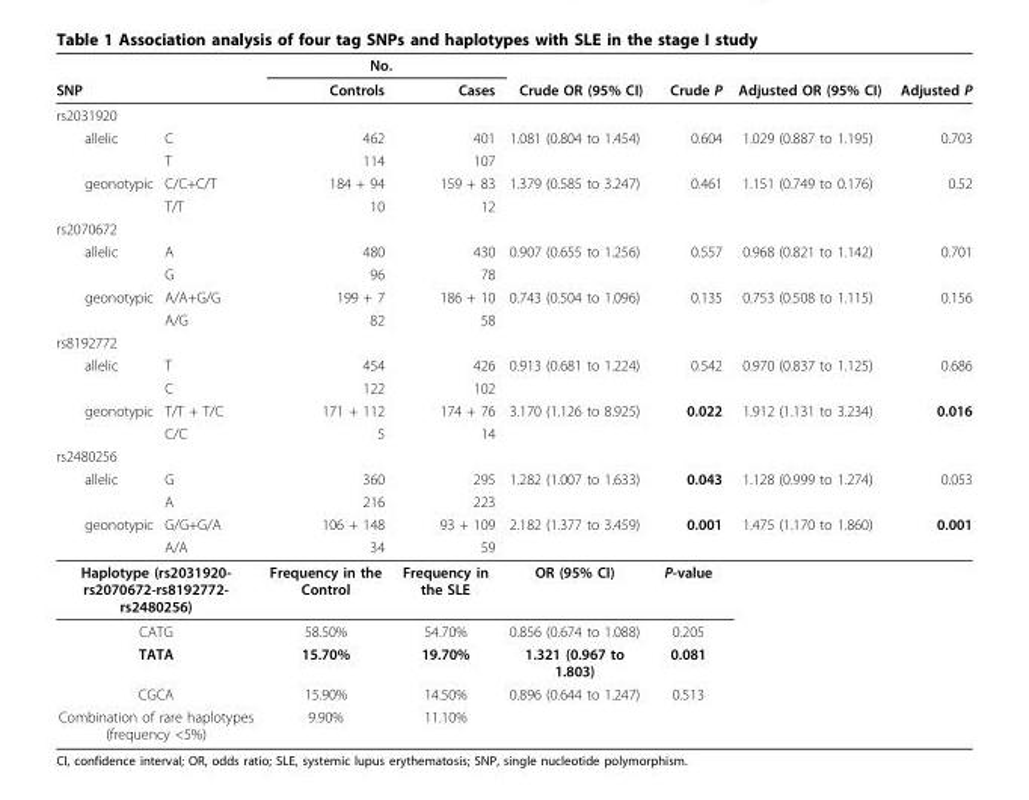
<table><thead><tr><td rowspan="2">SNP</td><td rowspan="2"></td><td colspan="2">No.</td><td rowspan="2">Crude OR (95% CI)</td><td rowspan="2">Crude P</td><td rowspan="2">Adjusted OR (95% CI)</td><td rowspan="2">Adjusted P</td></tr><tr><td>Controls</td><td>Cases</td></tr></thead><tbody><tr><td colspan="8">rs2031920</td></tr><tr><td rowspan="2">allelic</td><td>C</td><td>462</td><td>401</td><td>1.081 (0.804 to 1.454)</td><td>0.604</td><td>1.029 (0.887 to 1.195)</td><td>0.703</td></tr><tr><td>T</td><td>114</td><td>107</td><td></td><td></td><td></td><td></td></tr><tr><td rowspan="2">geonotypic</td><td>C/C+C/T</td><td>184 + 94</td><td>159 + 83</td><td>1.379 (0.585 to 3.247)</td><td>0.461</td><td>1.151 (0.749 to 0.176)</td><td>0.52</td></tr><tr><td>T/T</td><td>10</td><td>12</td><td></td><td></td><td></td><td></td></tr><tr><td colspan="8">rs2070672</td></tr><tr><td rowspan="2">allelic</td><td>A</td><td>480</td><td>430</td><td>0.907 (0.655 to 1.256)</td><td>0.557</td><td>0.968 (0.821 to 1.142)</td><td>0.701</td></tr><tr><td>G</td><td>96</td><td>78</td><td></td><td></td><td></td><td></td></tr><tr><td rowspan="2">geonotypic</td><td>A/A+G/G</td><td>199 + 7</td><td>186 + 10</td><td>0.743 (0.504 to 1.096)</td><td>0.135</td><td>0.753 (0.508 to 1.115)</td><td>0.156</td></tr><tr><td>A/G</td><td>82</td><td>58</td><td></td><td></td><td></td><td></td></tr><tr><td colspan="8">rs8192772</td></tr><tr><td rowspan="2">allelic</td><td>T</td><td>454</td><td>426</td><td>0.913 (0.681 to 1.224)</td><td>0.542</td><td>0.970 (0.837 to 1.125)</td><td>0.686</td></tr><tr><td>C</td><td>122</td><td>102</td><td></td><td></td><td></td><td></td></tr><tr><td rowspan="2">geonotypic</td><td>T/T + T/C</td><td>171 + 112</td><td>174 + 76</td><td>3.170 (1.126 to 8.925)</td><td>0.022</td><td>1.912 (1.131 to 3.234)</td><td>0.016</td></tr><tr><td>C/C</td><td>5</td><td>14</td><td></td><td></td><td></td><td></td></tr><tr><td colspan="8">rs2480256</td></tr><tr><td rowspan="2">allelic</td><td>G</td><td>360</td><td>295</td><td>1.282 (1.007 to 1.633)</td><td>0.043</td><td>1.128 (0.999 to 1.274)</td><td>0.053</td></tr><tr><td>A</td><td>216</td><td>223</td><td></td><td></td><td></td><td></td></tr><tr><td rowspan="2">geonotypic</td><td>G/G+G/A</td><td>106 + 148</td><td>93 + 109</td><td>2.182 (1.377 to 3.459)</td><td>0.001</td><td>1.475 (1.170 to 1.860)</td><td>0.001</td></tr><tr><td>A/A</td><td>34</td><td>59</td><td></td><td></td><td></td><td></td></tr><tr><td colspan="2">Haplotype (rs2031920- rs2070672-rs8192772- rs2480256)</td><td>Frequency in the Control</td><td>Frequency in the SLE</td><td>OR (95% CI)</td><td>P-value</td><td></td><td></td></tr><tr><td colspan="2">CATG</td><td>58.50%</td><td>54.70%</td><td>0.856 (0.674 to 1.088)</td><td>0.205</td><td></td><td></td></tr><tr><td colspan="2">TATA</td><td>15.70%</td><td>19.70%</td><td>1.321 (0.967 to 1.803)</td><td>0.081</td><td></td><td></td></tr><tr><td colspan="2">CGCA</td><td>15.90%</td><td>14.50%</td><td>0.896 (0.644 to 1.247)</td><td>0.513</td><td></td><td></td></tr><tr><td colspan="2">Combination of rare haplotypes (frequency &lt;5%)</td><td>9.90%</td><td>11.10%</td><td></td><td></td><td></td><td></td></tr></tbody></table>